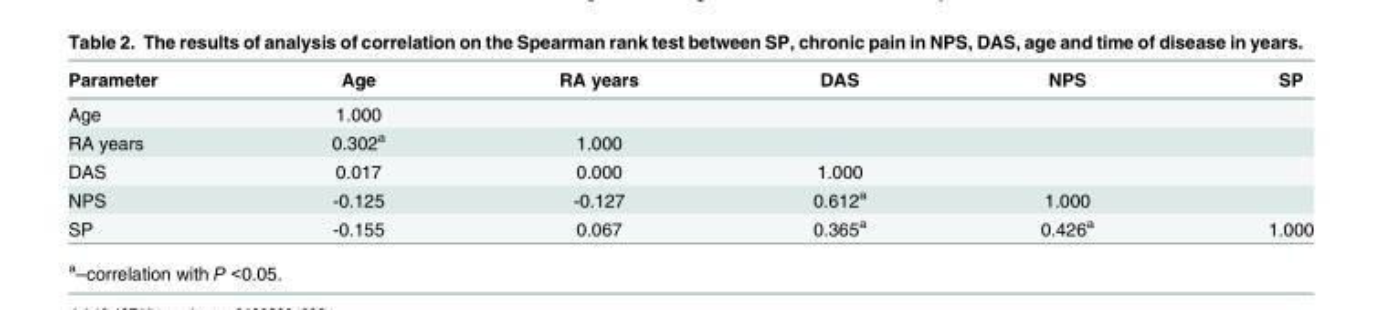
<table><thead><tr><td>Parameter</td><td>Age</td><td>RA years</td><td>DAS</td><td>NPS</td><td>SP</td></tr></thead><tbody><tr><td>Age</td><td>1.000</td><td></td><td></td><td></td><td></td></tr><tr><td>RA years</td><td>0.302<sup>a</sup></td><td>1.000</td><td></td><td></td><td></td></tr><tr><td>DAS</td><td>0.017</td><td>0.000</td><td>1.000</td><td></td><td></td></tr><tr><td>NPS</td><td>-0.125</td><td>-0.127</td><td>0.612<sup>a</sup></td><td>1.000</td><td></td></tr><tr><td>SP</td><td>-0.155</td><td>0.067</td><td>0.365<sup>a</sup></td><td>0.426<sup>a</sup></td><td>1.000</td></tr></tbody></table>